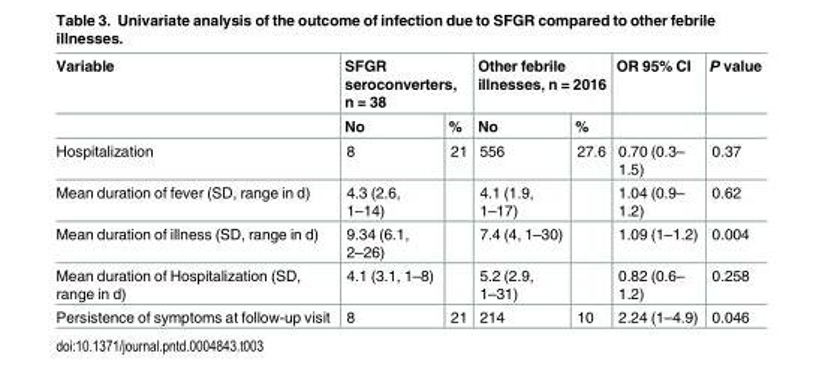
<table><thead><tr><td rowspan="2">Variable</td><td colspan="2">SFGR seroconverters, n = 38</td><td colspan="2">Other febrile illnesses, n = 2016</td><td rowspan="2">OR 95% CI</td><td rowspan="2">P value</td></tr><tr><td>No</td><td>%</td><td>No</td><td>%</td></tr></thead><tbody><tr><td>Hospitalization</td><td>8</td><td>21</td><td>556</td><td>27.6</td><td>0.70 (0.3– 1.5)</td><td>0.37</td></tr><tr><td>Mean duration of fever (SD, range in d)</td><td>4.3 (2.6, 1–14)</td><td></td><td>4.1 (1.9, 1–17)</td><td></td><td>1.04 (0.9– 1.2)</td><td>0.62</td></tr><tr><td>Mean duration of illness (SD, range in d)</td><td>9.34 (6.1, 2–26)</td><td></td><td>7.4 (4, 1–30)</td><td></td><td>1.09 (1–1.2)</td><td>0.004</td></tr><tr><td>Mean duration of Hospitalization (SD, range in d)</td><td>4.1 (3.1, 1–8)</td><td></td><td>5.2 (2.9, 1–31)</td><td></td><td>0.82 (0.6– 1.2)</td><td>0.258</td></tr><tr><td>Persistence of symptoms at follow-up visit</td><td>8</td><td>21</td><td>214</td><td>10</td><td>2.24 (1–4.9)</td><td>0.046</td></tr></tbody></table>